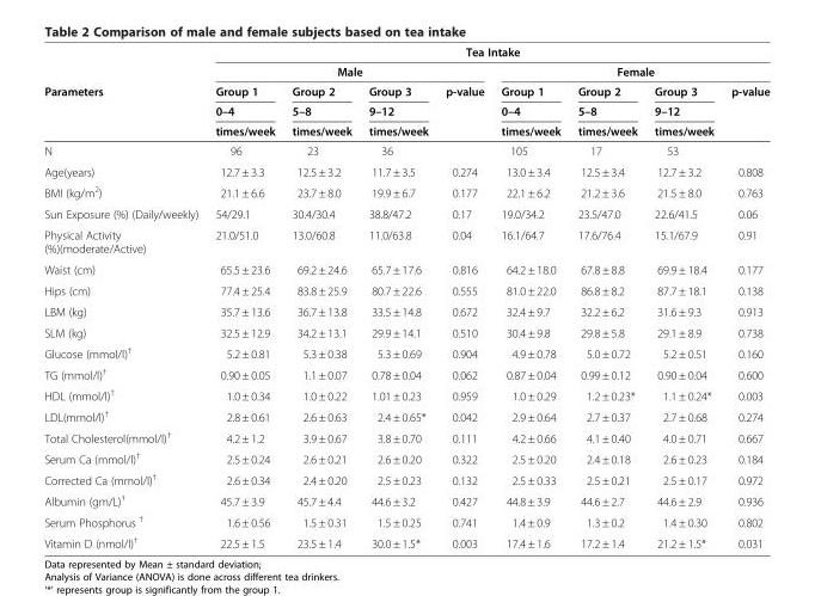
<table><thead><tr><td rowspan="5">Parameters</td><td colspan="8">Tea Intake</td></tr><tr><td colspan="4">Male</td><td colspan="4">Female</td></tr><tr><td rowspan="3">Group 1 0–4 times/week</td><td rowspan="3">Group 2 5–8 times/week</td><td rowspan="3">Group 3 9–12 times/week</td><td rowspan="3">p-value</td><td rowspan="3">Group 1 0–4 times/week</td><td rowspan="3">Group 2 5–8 times/week</td><td rowspan="3">Group 3 9–12 times/week</td><td rowspan="3">p-value</td></tr><tr></tr><tr></tr></thead><tbody><tr><td>N</td><td>96</td><td>23</td><td>36</td><td></td><td>105</td><td>17</td><td>53</td><td></td></tr><tr><td>Age(years)</td><td>12.7 ± 3.3</td><td>12.5 ± 3.2</td><td>11.7 ± 3.5</td><td>0.274</td><td>13.0 ± 3.4</td><td>12.5 ± 3.4</td><td>12.7 ± 3.2</td><td>0.808</td></tr><tr><td>BMI (kg/m<sup>2</sup>)</td><td>21.1 ± 6.6</td><td>23.7 ± 8.0</td><td>19.9 ± 6.7</td><td>0.177</td><td>22.1 ± 6.2</td><td>21.2 ± 3.6</td><td>21.5 ± 8.0</td><td>0.763</td></tr><tr><td>Sun Exposure (%) (Daily/weekly)</td><td>54/29.1</td><td>30.4/30.4</td><td>38.8/47.2</td><td>0.17</td><td>19.0/34.2</td><td>23.5/47.0</td><td>22.6/41.5</td><td>0.06</td></tr><tr><td>Physical Activity (%)(moderate/Active)</td><td>21.0/51.0</td><td>13.0/60.8</td><td>11.0/63.8</td><td>0.04</td><td>16.1/64.7</td><td>17.6/76.4</td><td>15.1/67.9</td><td>0.91</td></tr><tr><td>Waist (cm)</td><td>65.5 ± 23.6</td><td>69.2 ± 24.6</td><td>65.7 ± 17.6</td><td>0.816</td><td>64.2 ± 18.0</td><td>67.8 ± 8.8</td><td>69.9 ± 18.4</td><td>0.177</td></tr><tr><td>Hips (cm)</td><td>77.4 ± 25.4</td><td>83.8 ± 25.9</td><td>80.7 ± 22.6</td><td>0.555</td><td>81.0 ± 22.0</td><td>86.8 ± 8.2</td><td>87.7 ± 18.1</td><td>0.138</td></tr><tr><td>LBM (kg)</td><td>35.7 ± 13.6</td><td>36.7 ± 13.8</td><td>33.5 ± 14.8</td><td>0.672</td><td>32.4 ± 9.7</td><td>32.2 ± 6.2</td><td>31.6 ± 9.3</td><td>0.913</td></tr><tr><td>SLM (kg)</td><td>32.5 ± 12.9</td><td>34.2 ± 13.1</td><td>29.9 ± 14.1</td><td>0.510</td><td>30.4 ± 9.8</td><td>29.8 ± 5.8</td><td>29.1 ± 8.9</td><td>0.738</td></tr><tr><td>Glucose (mmol/l)<sup>†</sup></td><td>5.2 ± 0.81</td><td>5.3 ± 0.38</td><td>5.3 ± 0.69</td><td>0.904</td><td>4.9 ± 0.78</td><td>5.0 ± 0.72</td><td>5.2 ± 0.51</td><td>0.160</td></tr><tr><td>TG (mmol/l)<sup>†</sup></td><td>0.90 ± 0.05</td><td>1.1 ± 0.07</td><td>0.78 ± 0.04</td><td>0.062</td><td>0.87 ± 0.04</td><td>0.99 ± 0.12</td><td>0.90 ± 0.04</td><td>0.600</td></tr><tr><td>HDL (mmol/l)<sup>†</sup></td><td>1.0 ± 0.34</td><td>1.0 ± 0.22</td><td>1.01 ± 0.23</td><td>0.959</td><td>1.0 ± 0.29</td><td>1.2 ± 0.23*</td><td>1.1 ± 0.24*</td><td>0.003</td></tr><tr><td>LDL(mmol/l)<sup>†</sup></td><td>2.8 ± 0.61</td><td>2.6 ± 0.63</td><td>2.4 ± 0.65*</td><td>0.042</td><td>2.9 ± 0.64</td><td>2.7 ± 0.37</td><td>2.7 ± 0.68</td><td>0.274</td></tr><tr><td>Total Cholesterol(mmol/l)<sup>†</sup></td><td>4.2 ± 1.2</td><td>3.9 ± 0.67</td><td>3.8 ± 0.70</td><td>0.111</td><td>4.2 ± 0.66</td><td>4.1 ± 0.40</td><td>4.0 ± 0.71</td><td>0.667</td></tr><tr><td>Serum Ca (mmol/l)<sup>†</sup></td><td>2.5 ± 0.24</td><td>2.6 ± 0.21</td><td>2.6 ± 0.20</td><td>0.322</td><td>2.5 ± 0.20</td><td>2.4 ± 0.18</td><td>2.6 ± 0.23</td><td>0.184</td></tr><tr><td>Corrected Ca (mmol/l)<sup>†</sup></td><td>2.6 ± 0.34</td><td>2.4 ± 0.20</td><td>2.5 ± 0.23</td><td>0.132</td><td>2.5 ± 0.33</td><td>2.5 ± 0.21</td><td>2.5 ± 0.17</td><td>0.972</td></tr><tr><td>Albumin (gm/L)<sup>†</sup></td><td>45.7 ± 3.9</td><td>45.7 ± 4.4</td><td>44.6 ± 3.2</td><td>0.427</td><td>44.8 ± 3.9</td><td>44.6 ± 2.7</td><td>44.6 ± 2.9</td><td>0.936</td></tr><tr><td>Serum Phosphorus <sup>†</sup></td><td>1.6 ± 0.56</td><td>1.5 ± 0.31</td><td>1.5 ± 0.25</td><td>0.741</td><td>1.4 ± 0.9</td><td>1.3 ± 0.2</td><td>1.4 ± 0.30</td><td>0.802</td></tr><tr><td>Vitamin D (nmol/l)<sup>†</sup></td><td>22.5 ± 1.5</td><td>23.5 ± 1.4</td><td>30.0 ± 1.5*</td><td>0.003</td><td>17.4 ± 1.6</td><td>17.2 ± 1.4</td><td>21.2 ± 1.5*</td><td>0.031</td></tr></tbody></table>